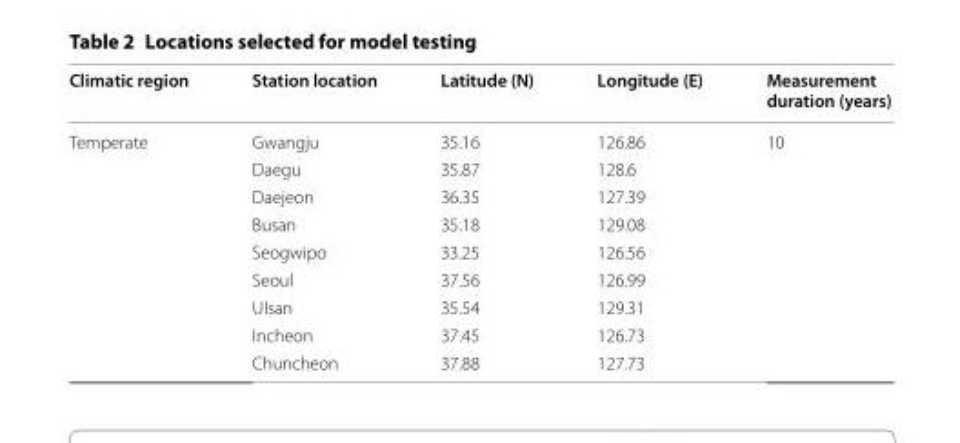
<table><thead><tr><td>Climatic region</td><td>Station location</td><td>Latitude (N)</td><td>Longitude (E)</td><td>Measurement duration (years)</td></tr></thead><tbody><tr><td rowspan="9">Temperate</td><td>Gwangju</td><td>35.16</td><td>126.86</td><td rowspan="9">10</td></tr><tr><td>Daegu</td><td>35.87</td><td>128.6</td></tr><tr><td>Daejeon</td><td>36.35</td><td>127.39</td></tr><tr><td>Busan</td><td>35.18</td><td>129.08</td></tr><tr><td>Seogwipo</td><td>33.25</td><td>126.56</td></tr><tr><td>Seoul</td><td>37.56</td><td>126.99</td></tr><tr><td>Ulsan</td><td>35.54</td><td>129.31</td></tr><tr><td>Incheon</td><td>37.45</td><td>126.73</td></tr><tr><td>Chuncheon</td><td>37.88</td><td>127.73</td></tr></tbody></table>